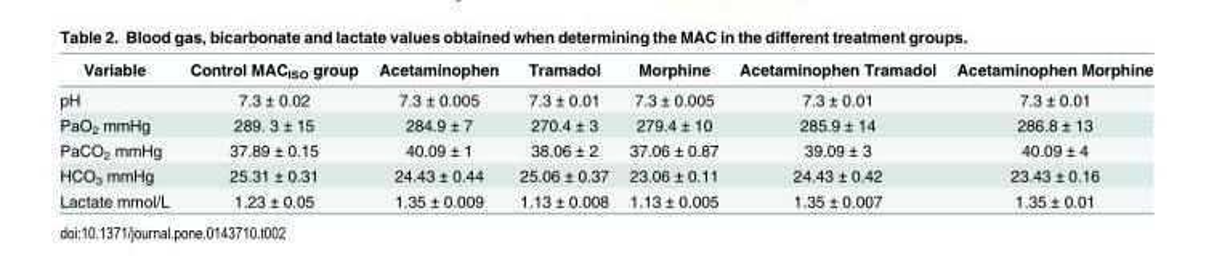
<table><thead><tr><td>Variable</td><td>Control MAC<sub>ISO</sub> group</td><td>Acetaminophen</td><td>Tramadol</td><td>Morphine</td><td>Acetaminophen Tramadol</td><td>Acetaminophen Morphine</td></tr></thead><tbody><tr><td>pH</td><td>7.3 ± 0.02</td><td>7.3 ± 0.005</td><td>7.3 ± 0.01</td><td>7.3 ± 0.005</td><td>7.3 ± 0.01</td><td>7.3 ± 0.01</td></tr><tr><td>PaO<sub>2</sub> mmHg</td><td>289. 3 ± 15</td><td>284.9 ± 7</td><td>270.4 ± 3</td><td>279.4 ± 10</td><td>285.9 ± 14</td><td>286.8 ± 13</td></tr><tr><td>PaCO<sub>2</sub> mmHg</td><td>37.89 ± 0.15</td><td>40.09 ± 1</td><td>38.06 ± 2</td><td>37.06 ± 0.87</td><td>39.09 ± 3</td><td>40.09 ± 4</td></tr><tr><td>HCO<sub>3</sub> mmHg</td><td>25.31 ± 0.31</td><td>24.43 ± 0.44</td><td>25.06 ± 0.37</td><td>23.06 ± 0.11</td><td>24.43 ± 0.42</td><td>23.43 ± 0.16</td></tr><tr><td>Lactate mmol/L</td><td>1.23 ± 0.05</td><td>1.35 ± 0.009</td><td>1.13 ± 0.008</td><td>1.13 ± 0.005</td><td>1.35 ± 0.007</td><td>1.35 ± 0.01</td></tr></tbody></table>